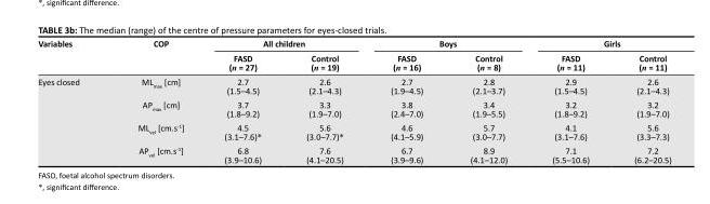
<table><thead><tr><td rowspan="2">Variables</td><td rowspan="2">COP</td><td colspan="2">All children</td><td colspan="2">Boys</td><td colspan="2">Girls</td></tr><tr><td>FASD (n = 27)</td><td>Control (n = 19)</td><td>FASD (n = 16)</td><td>Control (n = 8)</td><td>FASD (n = 11)</td><td>Control (n = 11)</td></tr></thead><tbody><tr><td rowspan="4">Eyes closed</td><td>ML<sub>max</sub> [cm]</td><td>2.7 (1.5–4.5)</td><td>2.6 (2.1–4.3)</td><td>2.7 (1.9–4.5)</td><td>2.8 (2.1–3.7)</td><td>2.9 (1.5–4.5)</td><td>2.6 (2.1–4.3)</td></tr><tr><td>AP<sub>max</sub> [cm]</td><td>3.7 (1.8–9.2)</td><td>3.3 (1.9–7.0)</td><td>3.8 (2.4–7.0)</td><td>3.4 (1.9–5.5)</td><td>3.2 (1.8–9.2)</td><td>3.2 (1.9–7.0)</td></tr><tr><td>ML<sub>vel</sub> [cm.s<sup>-1</sup>]</td><td>4.5 (3.1–7.6)*</td><td>5.6 (3.0–7.7)*</td><td>4.6 (4.1–5.9)</td><td>5.7 (3.0–7.7)</td><td>4.1 (3.1–7.6)</td><td>5.6 (3.3–7.3)</td></tr><tr><td>AP<sub>vel</sub> [cm.s<sup>-1</sup>]</td><td>6.8 (3.9–10.6)</td><td>7.6 (4.1–20.5)</td><td>6.7 (3.9–9.6)</td><td>8.9 (4.1–12.0)</td><td>7.1 (5.5–10.6)</td><td>7.2 (6.2–20.5)</td></tr></tbody></table>